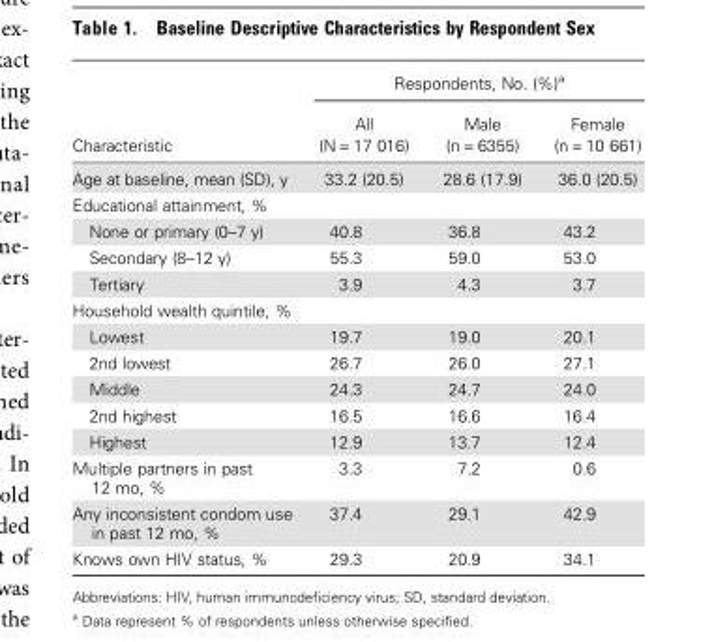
<table><thead><tr><td rowspan="2">Characteristic</td><td colspan="3">Respondents, No. (%)<sup>a</sup></td></tr><tr><td>All (N = 17 016)</td><td>Male (n = 6355)</td><td>Female (n = 10 661)</td></tr></thead><tbody><tr><td>Age at baseline, mean (SD), y</td><td>33.2 (20.5)</td><td>28.6 (17.9)</td><td>36.0 (20.5)</td></tr><tr><td colspan="4">Educational attainment, %</td></tr><tr><td>None or primary (0–7 y)</td><td>40.8</td><td>36.8</td><td>43.2</td></tr><tr><td>Secondary (8–12 y)</td><td>55.3</td><td>59.0</td><td>53.0</td></tr><tr><td>Tertiary</td><td>3.9</td><td>4.3</td><td>3.7</td></tr><tr><td colspan="4">Household wealth quintile, %</td></tr><tr><td>Lowest</td><td>19.7</td><td>19.0</td><td>20.1</td></tr><tr><td>2nd lowest</td><td>26.7</td><td>26.0</td><td>27.1</td></tr><tr><td>Middle</td><td>24.3</td><td>24.7</td><td>24.0</td></tr><tr><td>2nd highest</td><td>16.5</td><td>16.6</td><td>16.4</td></tr><tr><td>Highest</td><td>12.9</td><td>13.7</td><td>12.4</td></tr><tr><td>Multiple partners in past 12 mo, %</td><td>3.3</td><td>7.2</td><td>0.6</td></tr><tr><td>Any inconsistent condom use in past 12 mo, %</td><td>37.4</td><td>29.1</td><td>42.9</td></tr><tr><td>Knows own HIV status, %</td><td>29.3</td><td>20.9</td><td>34.1</td></tr></tbody></table>